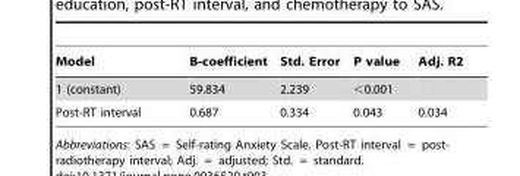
<table><thead><tr><td>Model</td><td>B-coefficient</td><td>Std. Error</td><td>P value</td><td>Adj. R2</td></tr></thead><tbody><tr><td>1 (constant)</td><td>59.834</td><td>2.239</td><td>&lt;0.001</td><td></td></tr><tr><td>Post-RT interval</td><td>0.687</td><td>0.334</td><td>0.043</td><td>0.034</td></tr></tbody></table>